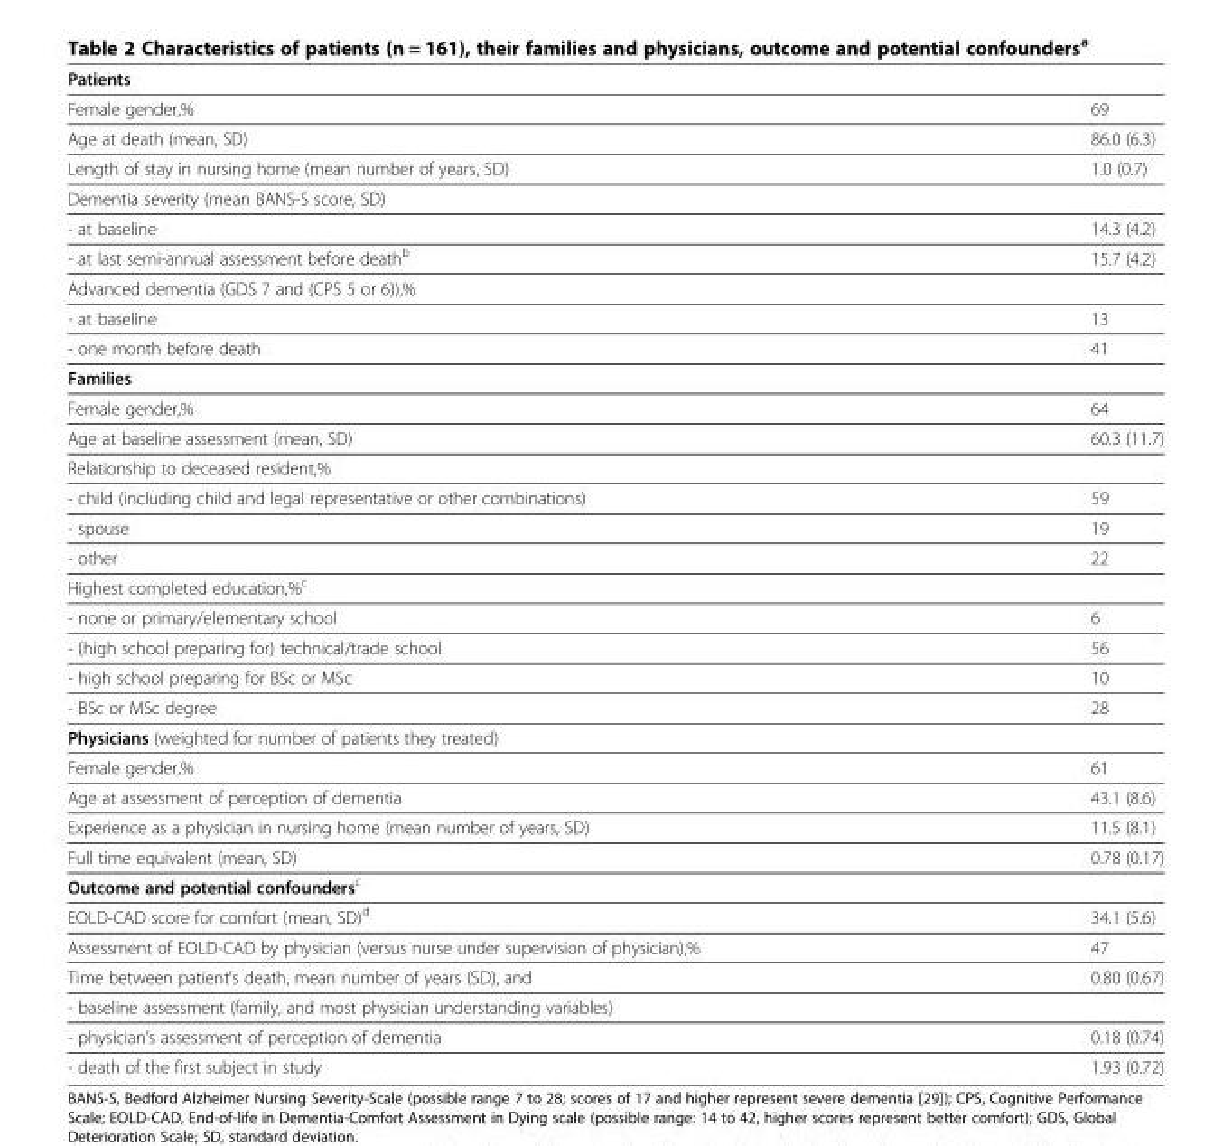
<table><thead><tr><td>Patients</td><td></td></tr></thead><tbody><tr><td>Female gender,%</td><td>69</td></tr><tr><td>Age at death (mean, SD)</td><td>86.0 (6.3)</td></tr><tr><td>Length of stay in nursing home (mean number of years, SD)</td><td>1.0 (0.7)</td></tr><tr><td colspan="2">Dementia severity (mean BANS-S score, SD)</td></tr><tr><td>- at baseline</td><td>14.3 (4.2)</td></tr><tr><td>- at last semi-annual assessment before death<sup>b</sup></td><td>15.7 (4.2)</td></tr><tr><td colspan="2">Advanced dementia (GDS 7 and (CPS 5 or 6)),%</td></tr><tr><td>- at baseline</td><td>13</td></tr><tr><td>- one month before death</td><td>41</td></tr><tr><td colspan="2">Families</td></tr><tr><td>Female gender,%</td><td>64</td></tr><tr><td>Age at baseline assessment (mean, SD)</td><td>60.3 (11.7)</td></tr><tr><td colspan="2">Relationship to deceased resident,%</td></tr><tr><td>- child (including child and legal representative or other combinations)</td><td>59</td></tr><tr><td>- spouse</td><td>19</td></tr><tr><td>- other</td><td>22</td></tr><tr><td colspan="2">Highest completed education,%<sup>c</sup></td></tr><tr><td>- none or primary/elementary school</td><td>6</td></tr><tr><td>- (high school preparing for) technical/trade school</td><td>56</td></tr><tr><td>- high school preparing for BSc or MSc</td><td>10</td></tr><tr><td>- BSc or MSc degree</td><td>28</td></tr><tr><td colspan="2">Physicians (weighted for number of patients they treated)</td></tr><tr><td>Female gender,%</td><td>61</td></tr><tr><td>Age at assessment of perception of dementia</td><td>43.1 (8.6)</td></tr><tr><td>Experience as a physician in nursing home (mean number of years, SD)</td><td>11.5 (8.1)</td></tr><tr><td>Full time equivalent (mean, SD)</td><td>0.78 (0.17)</td></tr><tr><td colspan="2">Outcome and potential confounders<sup>c</sup></td></tr><tr><td>EOLD-CAD score for comfort (mean, SD)<sup>d</sup></td><td>34.1 (5.6)</td></tr><tr><td>Assessment of EOLD-CAD by physician (versus nurse under supervision of physician),%</td><td>47</td></tr><tr><td>Time between patient’s death, mean number of years (SD), and</td><td>0.80 (0.67)</td></tr><tr><td colspan="2">- baseline assessment (family, and most physician understanding variables)</td></tr><tr><td>- physician’s assessment of perception of dementia</td><td>0.18 (0.74)</td></tr><tr><td>- death of the first subject in study</td><td>1.93 (0.72)</td></tr></tbody></table>